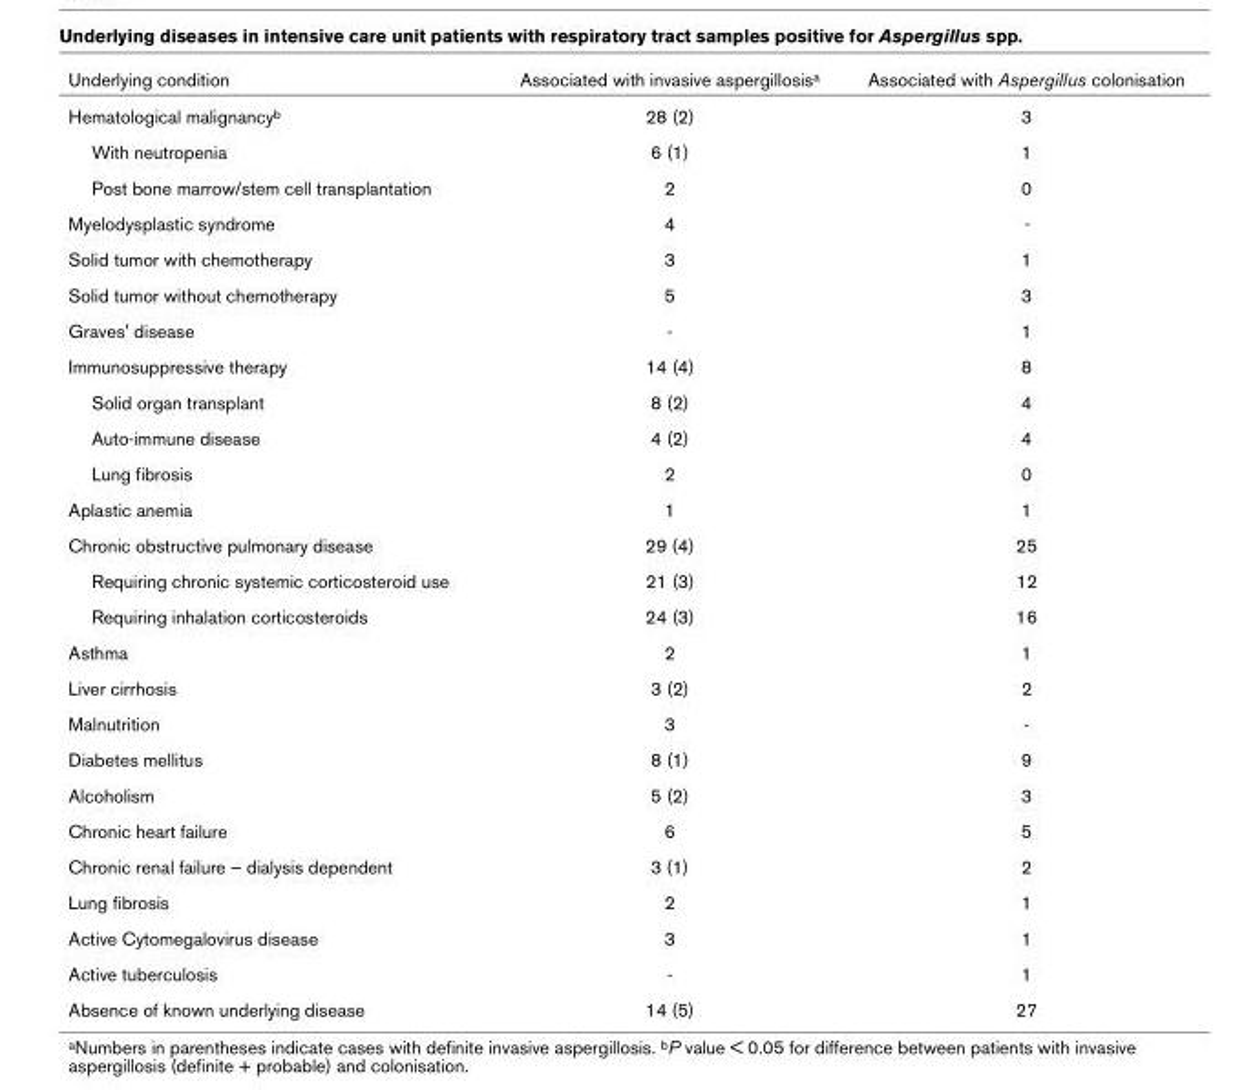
<table><thead><tr><td>Underlying condition</td><td>Associated with invasive aspergillosisa</td><td>Associated with Aspergillus colonisation</td></tr></thead><tbody><tr><td>Hematological malignancyb</td><td>28 (2)</td><td>3</td></tr><tr><td>With neutropenia</td><td>6 (1)</td><td>1</td></tr><tr><td>Post bone marrow/stem cell transplantation</td><td>2</td><td>0</td></tr><tr><td>Myelodysplastic syndrome</td><td>4</td><td>-</td></tr><tr><td>Solid tumor with chemotherapy</td><td>3</td><td>1</td></tr><tr><td>Solid tumor without chemotherapy</td><td>5</td><td>3</td></tr><tr><td>Graves&#x27; disease</td><td>-</td><td>1</td></tr><tr><td>Immunosuppressive therapy</td><td>14 (4)</td><td>8</td></tr><tr><td>Solid organ transplant</td><td>8 (2)</td><td>4</td></tr><tr><td>Auto-immune disease</td><td>4 (2)</td><td>4</td></tr><tr><td>Lung fibrosis</td><td>2</td><td>0</td></tr><tr><td>Aplastic anemia</td><td>1</td><td>1</td></tr><tr><td>Chronic obstructive pulmonary disease</td><td>29 (4)</td><td>25</td></tr><tr><td>Requiring chronic systemic corticosteroid use</td><td>21 (3)</td><td>12</td></tr><tr><td>Requiring inhalation corticosteroids</td><td>24 (3)</td><td>16</td></tr><tr><td>Asthma</td><td>2</td><td>1</td></tr><tr><td>Liver cirrhosis</td><td>3 (2)</td><td>2</td></tr><tr><td>Malnutrition</td><td>3</td><td>-</td></tr><tr><td>Diabetes mellitus</td><td>8 (1)</td><td>9</td></tr><tr><td>Alcoholism</td><td>5 (2)</td><td>3</td></tr><tr><td>Chronic heart failure</td><td>6</td><td>5</td></tr><tr><td>Chronic renal failure – dialysis dependent</td><td>3 (1)</td><td>2</td></tr><tr><td>Lung fibrosis</td><td>2</td><td>1</td></tr><tr><td>Active Cytomegalovirus disease</td><td>3</td><td>1</td></tr><tr><td>Active tuberculosis</td><td>-</td><td>1</td></tr><tr><td>Absence of known underlying disease</td><td>14 (5)</td><td>27</td></tr></tbody></table>